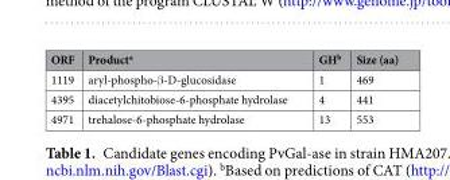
<table><thead><tr><td>ORF</td><td>Product<sup>a</sup></td><td>GH<sup>b</sup></td><td>Size (aa)</td></tr></thead><tbody><tr><td>1119</td><td>aryl-phospho-β-D-glucosidase</td><td>1</td><td>469</td></tr><tr><td>4395</td><td>diacetylchitobiose-6-phosphate hydrolase</td><td>4</td><td>441</td></tr><tr><td>4971</td><td>trehalose-6-phosphate hydrolase</td><td>13</td><td>553</td></tr></tbody></table>